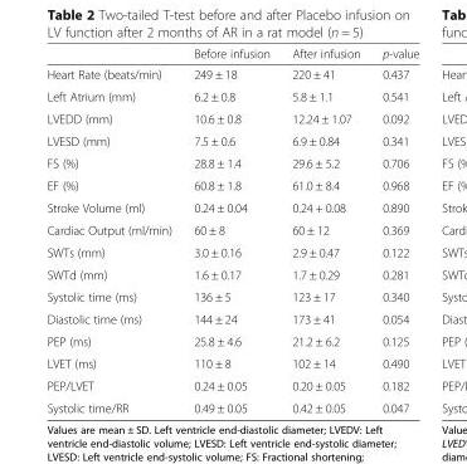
<table><thead><tr><td></td><td>Before infusion</td><td>After infusion</td><td>p-value</td></tr></thead><tbody><tr><td>Heart Rate (beats/min)</td><td>249 ± 18</td><td>220 ± 41</td><td>0.437</td></tr><tr><td>Left Atrium (mm)</td><td>6.2 ± 0.8</td><td>5.8 ± 1.1</td><td>0.541</td></tr><tr><td>LVEDD (mm)</td><td>10.6 ± 0.8</td><td>12.24 ± 1.07</td><td>0.092</td></tr><tr><td>LVESD (mm)</td><td>7.5 ± 0.6</td><td>6.9 ± 0.84</td><td>0.341</td></tr><tr><td>FS (%)</td><td>28.8 ± 1.4</td><td>29.6 ± 5.2</td><td>0.706</td></tr><tr><td>EF (%)</td><td>60.8 ± 1.8</td><td>61.0 ± 8.4</td><td>0.968</td></tr><tr><td>Stroke Volume (ml)</td><td>0.24 ± 0.04</td><td>0.24 + 0.08</td><td>0.890</td></tr><tr><td>Cardiac Output (ml/min)</td><td>60 ± 8</td><td>60 ± 12</td><td>0.369</td></tr><tr><td>SWTs (mm)</td><td>3.0 ± 0.16</td><td>2.9 ± 0.47</td><td>0.122</td></tr><tr><td>SWTd (mm)</td><td>1.6 ± 0.17</td><td>1.7 ± 0.29</td><td>0.281</td></tr><tr><td>Systolic time (ms)</td><td>136 ± 5</td><td>123 ± 17</td><td>0.340</td></tr><tr><td>Diastolic time (ms)</td><td>144 ± 24</td><td>173 ± 41</td><td>0.054</td></tr><tr><td>PEP (ms)</td><td>25.8 ± 4.6</td><td>21.2 ± 6.2</td><td>0.125</td></tr><tr><td>LVET (ms)</td><td>110 ± 8</td><td>102 ± 14</td><td>0.490</td></tr><tr><td>PEP/LVET</td><td>0.24 ± 0.05</td><td>0.20 ± 0.05</td><td>0.182</td></tr><tr><td>Systolic time/RR</td><td>0.49 ± 0.05</td><td>0.42 ± 0.05</td><td>0.047</td></tr></tbody></table>